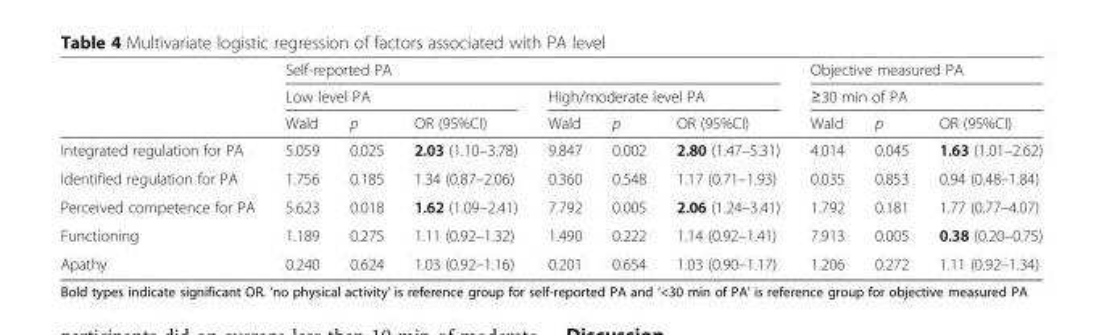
<table><thead><tr><td rowspan="3"></td><td colspan="6">Self-reported PA</td><td rowspan="2" colspan="3">Objective measured PA ≥30 min of PA</td></tr><tr><td colspan="3">Low level PA</td><td colspan="3">High/moderate level PA</td></tr><tr><td>Wald</td><td>p</td><td>OR (95%CI)</td><td>Wald</td><td>p</td><td>OR (95%CI)</td><td>Wald</td><td>p</td><td>OR (95%CI)</td></tr></thead><tbody><tr><td>Integrated regulation for PA</td><td>5.059</td><td>0.025</td><td>2.03 (1.10–3.78)</td><td>9.847</td><td>0.002</td><td>2.80 (1.47–5.31)</td><td>4.014</td><td>0.045</td><td>1.63 (1.01–2.62)</td></tr><tr><td>Identified regulation for PA</td><td>1.756</td><td>0.185</td><td>1.34 (0.87–2.06)</td><td>0.360</td><td>0.548</td><td>1.17 (0.71–1.93)</td><td>0.035</td><td>0.853</td><td>0.94 (0.48–1.84)</td></tr><tr><td>Perceived competence for PA</td><td>5.623</td><td>0.018</td><td>1.62 (1.09–2.41)</td><td>7.792</td><td>0.005</td><td>2.06 (1.24–3.41)</td><td>1.792</td><td>0.181</td><td>1.77 (0.77–4.07)</td></tr><tr><td>Functioning</td><td>1.189</td><td>0.275</td><td>1.11 (0.92–1.32)</td><td>1.490</td><td>0.222</td><td>1.14 (0.92–1.41)</td><td>7.913</td><td>0.005</td><td>0.38 (0.20–0.75)</td></tr><tr><td>Apathy</td><td>0.240</td><td>0.624</td><td>1.03 (0.92–1.16)</td><td>0.201</td><td>0.654</td><td>1.03 (0.90–1.17)</td><td>1.206</td><td>0.272</td><td>1.11 (0.92–1.34)</td></tr></tbody></table>